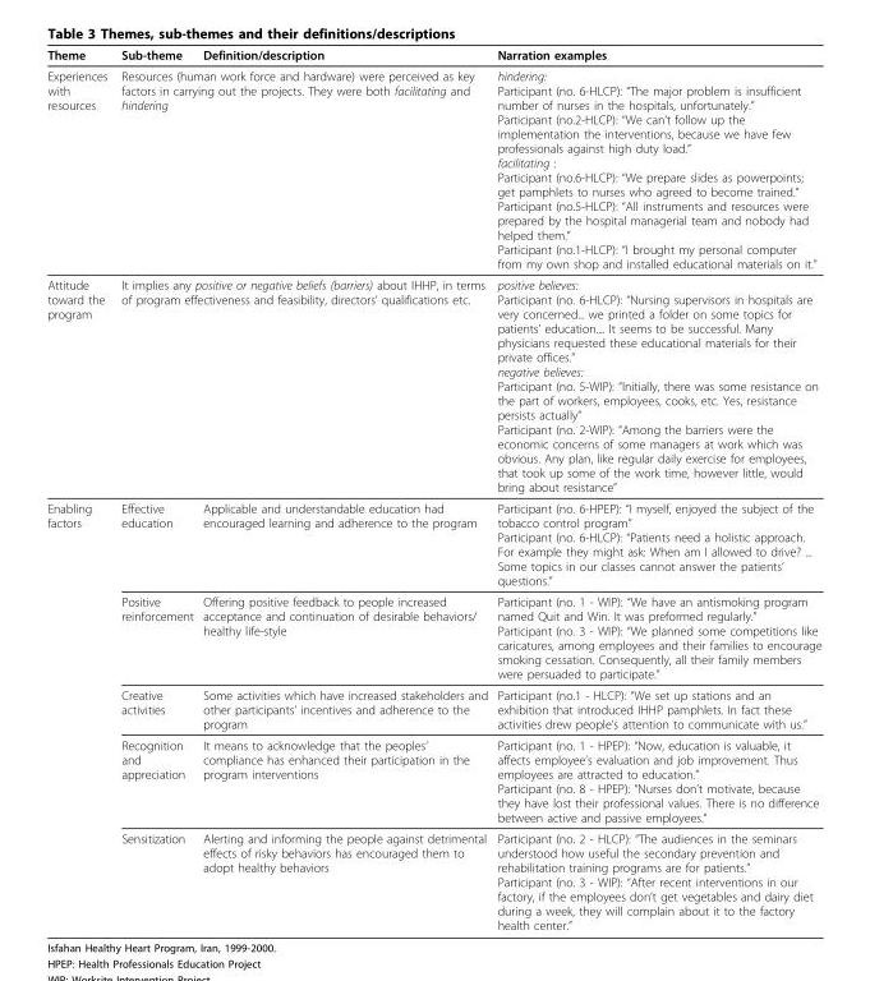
<table><thead><tr><td>Theme</td><td>Sub-theme</td><td>Definition/description</td><td>Narration examples</td></tr></thead><tbody><tr><td>Experiences with resources</td><td colspan="2">Resources (human work force and hardware) were perceived as key factors in carrying out the projects. They were both facilitating and hindering</td><td>hindering: Participant (no. 6-HLCP): “The major problem is insufficient number of nurses in the hospitals, unfortunately.” Participant (no.2-HLCP): “We can’t follow up the implementation the interventions, because we have few professionals against high duty load.” facilitating : Participant (no.6-HLCP): “We prepare slides as powerpoints; get pamphlets to nurses who agreed to become trained.” Participant (no.5-HLCP): “All instruments and resources were prepared by the hospital managerial team and nobody had helped them.” Participant (no.1-HLCP): “I brought my personal computer from my own shop and installed educational materials on it.”</td></tr><tr><td>Attitude toward the program</td><td colspan="2">It implies any positive or negative beliefs (barriers) about IHHP, in terms of program effectiveness and feasibility, directors’ qualifications etc.</td><td>positive believes: Participant (no. 6-HLCP): “Nursing supervisors in hospitals are very concerned... we printed a folder on some topics for patients’ education.... It seems to be successful. Many physicians requested these educational materials for their private offices.” negative believes: Participant (no. 5-WIP): “Initially, there was some resistance on the part of workers, employees, cooks, etc. Yes, resistance persists actually” Participant (no. 2-WIP): “Among the barriers were the economic concerns of some managers at work which was obvious. Any plan, like regular daily exercise for employees, that took up some of the work time, however little, would bring about resistance”</td></tr><tr><td rowspan="5">Enabling factors</td><td>Effective education</td><td>Applicable and understandable education had encouraged learning and adherence to the program</td><td>Participant (no. 6-HPEP): “I myself, enjoyed the subject of the tobacco control program” Participant (no. 6-HLCP): “Patients need a holistic approach. For example they might ask: When am I allowed to drive? ... Some topics in our classes cannot answer the patients’ questions.”</td></tr><tr><td>Positive reinforcement</td><td>Offering positive feedback to people increased acceptance and continuation of desirable behaviors/ healthy life-style</td><td>Participant (no. 1 - WIP): “We have an antismoking program named Quit and Win. It was preformed regularly.” Participant (no. 3 - WIP): “We planned some competitions like caricatures, among employees and their families to encourage smoking cessation. Consequently, all their family members were persuaded to participate.”</td></tr><tr><td>Creative activities</td><td>Some activities which have increased stakeholders and other participants’ incentives and adherence to the program</td><td>Participant (no.1 - HLCP): “We set up stations and an exhibition that introduced IHHP pamphlets. In fact these activities drew people’s attention to communicate with us.”</td></tr><tr><td>Recognition and appreciation</td><td>It means to acknowledge that the peoples’ compliance has enhanced their participation in the program interventions</td><td>Participant (no. 1 - HPEP): “Now, education is valuable, it affects employee’s evaluation and job improvement. Thus employees are attracted to education.” Participant (no. 8 - HPEP): “Nurses don’t motivate, because they have lost their professional values. There is no difference between active and passive employees.”</td></tr><tr><td>Sensitization</td><td>Alerting and informing the people against detrimental effects of risky behaviors has encouraged them to adopt healthy behaviors</td><td>Participant (no. 2 - HLCP): “The audiences in the seminars understood how useful the secondary prevention and rehabilitation training programs are for patients.” Participant (no. 3 - WIP): “After recent interventions in our factory, if the employees don’t get vegetables and dairy diet during a week, they will complain about it to the factory health center.”</td></tr></tbody></table>